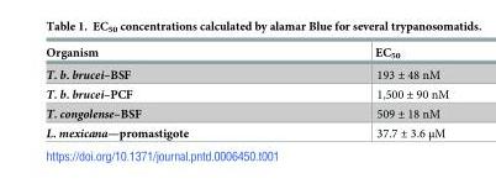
<table><thead><tr><td>Organism</td><td>EC<sub>50</sub></td></tr></thead><tbody><tr><td>T. b. brucei–BSF</td><td>193 ± 48 nM</td></tr><tr><td>T. b. brucei–PCF</td><td>1,500 ± 90 nM</td></tr><tr><td>T. congolense–BSF</td><td>509 ± 18 nM</td></tr><tr><td>L. mexicana—promastigote</td><td>37.7 ± 3.6 μM</td></tr></tbody></table>